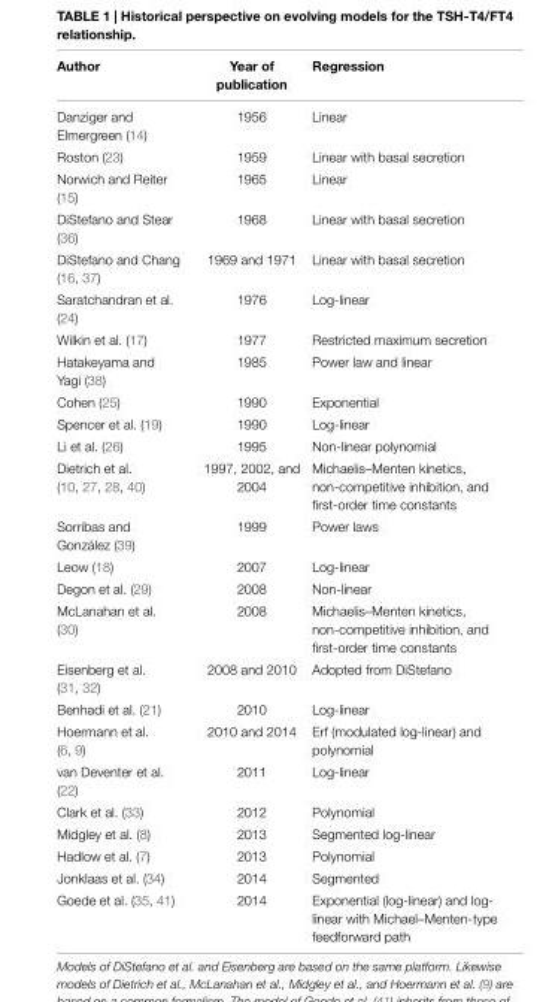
<table><thead><tr><td>Author</td><td>Year of publication</td><td>Regression</td></tr></thead><tbody><tr><td>Danziger and Elmergreen (14)</td><td>1956</td><td>Linear</td></tr><tr><td>Roston (23)</td><td>1959</td><td>Linear with basal secretion</td></tr><tr><td>Norwich and Reiter (15)</td><td>1965</td><td>Linear</td></tr><tr><td>DiStefano and Stear (36)</td><td>1968</td><td>Linear with basal secretion</td></tr><tr><td>DiStefano and Chang (16, 37)</td><td>1969 and 1971</td><td>Linear with basal secretion</td></tr><tr><td>Saratchandran et al. (24)</td><td>1976</td><td>Log-linear</td></tr><tr><td>Wilkin et al. (17)</td><td>1977</td><td>Restricted maximum secretion</td></tr><tr><td>Hatakeyama and Yagi (38)</td><td>1985</td><td>Power law and linear</td></tr><tr><td>Cohen (25)</td><td>1990</td><td>Exponential</td></tr><tr><td>Spencer et al. (19)</td><td>1990</td><td>Log-linear</td></tr><tr><td>Li et al. (26)</td><td>1995</td><td>Non-linear polynomial</td></tr><tr><td>Dietrich et al. (10, 27, 28, 40)</td><td>1997, 2002, and 2004</td><td>Michaelis–Menten kinetics, non-competitive inhibition, and first-order time constants</td></tr><tr><td>Sorribas and González (39)</td><td>1999</td><td>Power laws</td></tr><tr><td>Leow (18)</td><td>2007</td><td>Log-linear</td></tr><tr><td>Degon et al. (29)</td><td>2008</td><td>Non-linear</td></tr><tr><td>McLanahan et al. (30)</td><td>2008</td><td>Michaelis–Menten kinetics, non-competitive inhibition, and first-order time constants</td></tr><tr><td>Eisenberg et al. (31, 32)</td><td>2008 and 2010</td><td>Adopted from DiStefano</td></tr><tr><td>Benhadi et al. (21)</td><td>2010</td><td>Log-linear</td></tr><tr><td>Hoermann et al. (6, 9)</td><td>2010 and 2014</td><td>Erf (modulated log-linear) and polynomial</td></tr><tr><td>van Deventer et al. (22)</td><td>2011</td><td>Log-linear</td></tr><tr><td>Clark et al. (33)</td><td>2012</td><td>Polynomial</td></tr><tr><td>Midgley et al. (8)</td><td>2013</td><td>Segmented log-linear</td></tr><tr><td>Hadlow et al. (7)</td><td>2013</td><td>Polynomial</td></tr><tr><td>Jonklaas et al. (34)</td><td>2014</td><td>Segmented</td></tr><tr><td>Goede et al. (35, 41)</td><td>2014</td><td>Exponential (log-linear) and log- linear with Michael–Menten-type feedforward path</td></tr></tbody></table>